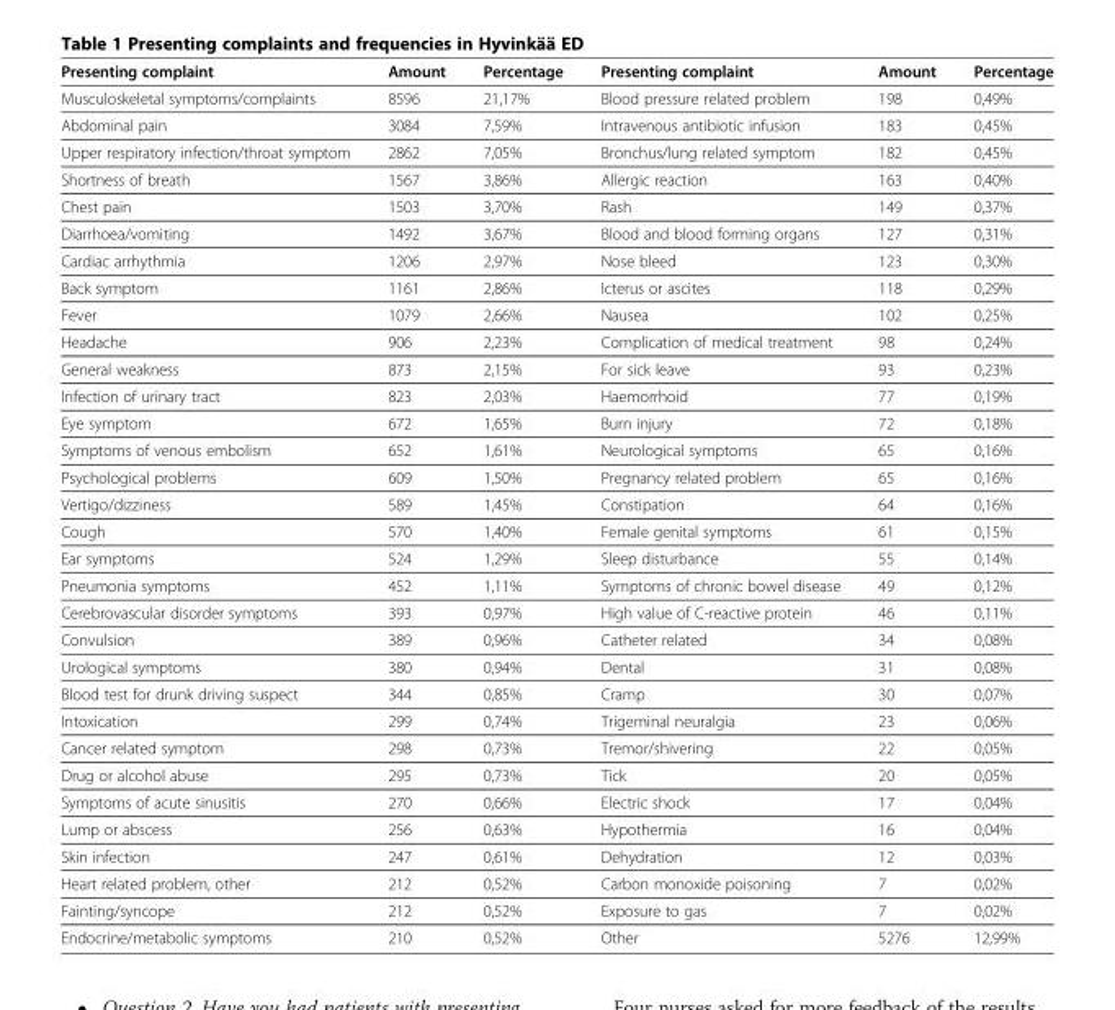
<table><thead><tr><td>Presenting complaint</td><td>Amount</td><td>Percentage</td><td>Presenting complaint</td><td>Amount</td><td>Percentage</td></tr></thead><tbody><tr><td>Musculoskeletal symptoms/complaints</td><td>8596</td><td>21,17%</td><td>Blood pressure related problem</td><td>198</td><td>0,49%</td></tr><tr><td>Abdominal pain</td><td>3084</td><td>7,59%</td><td>Intravenous antibiotic infusion</td><td>183</td><td>0,45%</td></tr><tr><td>Upper respiratory infection/throat symptom</td><td>2862</td><td>7,05%</td><td>Bronchus/lung related symptom</td><td>182</td><td>0,45%</td></tr><tr><td>Shortness of breath</td><td>1567</td><td>3,86%</td><td>Allergic reaction</td><td>163</td><td>0,40%</td></tr><tr><td>Chest pain</td><td>1503</td><td>3,70%</td><td>Rash</td><td>149</td><td>0,37%</td></tr><tr><td>Diarrhoea/vomiting</td><td>1492</td><td>3,67%</td><td>Blood and blood forming organs</td><td>127</td><td>0,31%</td></tr><tr><td>Cardiac arrhythmia</td><td>1206</td><td>2,97%</td><td>Nose bleed</td><td>123</td><td>0,30%</td></tr><tr><td>Back symptom</td><td>1161</td><td>2,86%</td><td>Icterus or ascites</td><td>118</td><td>0,29%</td></tr><tr><td>Fever</td><td>1079</td><td>2,66%</td><td>Nausea</td><td>102</td><td>0,25%</td></tr><tr><td>Headache</td><td>906</td><td>2,23%</td><td>Complication of medical treatment</td><td>98</td><td>0,24%</td></tr><tr><td>General weakness</td><td>873</td><td>2,15%</td><td>For sick leave</td><td>93</td><td>0,23%</td></tr><tr><td>Infection of urinary tract</td><td>823</td><td>2,03%</td><td>Haemorrhoid</td><td>77</td><td>0,19%</td></tr><tr><td>Eye symptom</td><td>672</td><td>1,65%</td><td>Burn injury</td><td>72</td><td>0,18%</td></tr><tr><td>Symptoms of venous embolism</td><td>652</td><td>1,61%</td><td>Neurological symptoms</td><td>65</td><td>0,16%</td></tr><tr><td>Psychological problems</td><td>609</td><td>1,50%</td><td>Pregnancy related problem</td><td>65</td><td>0,16%</td></tr><tr><td>Vertigo/dizziness</td><td>589</td><td>1,45%</td><td>Constipation</td><td>64</td><td>0,16%</td></tr><tr><td>Cough</td><td>570</td><td>1,40%</td><td>Female genital symptoms</td><td>61</td><td>0,15%</td></tr><tr><td>Ear symptoms</td><td>524</td><td>1,29%</td><td>Sleep disturbance</td><td>55</td><td>0,14%</td></tr><tr><td>Pneumonia symptoms</td><td>452</td><td>1,11%</td><td>Symptoms of chronic bowel disease</td><td>49</td><td>0,12%</td></tr><tr><td>Cerebrovascular disorder symptoms</td><td>393</td><td>0,97%</td><td>High value of C-reactive protein</td><td>46</td><td>0,11%</td></tr><tr><td>Convulsion</td><td>389</td><td>0,96%</td><td>Catheter related</td><td>34</td><td>0,08%</td></tr><tr><td>Urological symptoms</td><td>380</td><td>0,94%</td><td>Dental</td><td>31</td><td>0,08%</td></tr><tr><td>Blood test for drunk driving suspect</td><td>344</td><td>0,85%</td><td>Cramp</td><td>30</td><td>0,07%</td></tr><tr><td>Intoxication</td><td>299</td><td>0,74%</td><td>Trigeminal neuralgia</td><td>23</td><td>0,06%</td></tr><tr><td>Cancer related symptom</td><td>298</td><td>0,73%</td><td>Tremor/shivering</td><td>22</td><td>0,05%</td></tr><tr><td>Drug or alcohol abuse</td><td>295</td><td>0,73%</td><td>Tick</td><td>20</td><td>0,05%</td></tr><tr><td>Symptoms of acute sinusitis</td><td>270</td><td>0,66%</td><td>Electric shock</td><td>17</td><td>0,04%</td></tr><tr><td>Lump or abscess</td><td>256</td><td>0,63%</td><td>Hypothermia</td><td>16</td><td>0,04%</td></tr><tr><td>Skin infection</td><td>247</td><td>0,61%</td><td>Dehydration</td><td>12</td><td>0,03%</td></tr><tr><td>Heart related problem, other</td><td>212</td><td>0,52%</td><td>Carbon monoxide poisoning</td><td>7</td><td>0,02%</td></tr><tr><td>Fainting/syncope</td><td>212</td><td>0,52%</td><td>Exposure to gas</td><td>7</td><td>0,02%</td></tr><tr><td>Endocrine/metabolic symptoms</td><td>210</td><td>0,52%</td><td>Other</td><td>5276</td><td>12,99%</td></tr></tbody></table>